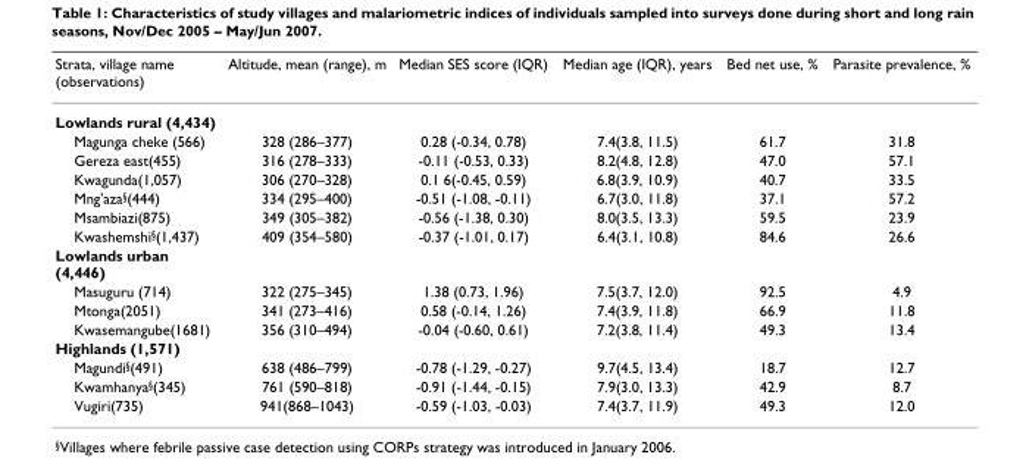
<table><thead><tr><td>Strata, village name (observations)</td><td>Altitude, mean (range), m</td><td>Median SES score (IQR)</td><td>Median age (IQR), years</td><td>Bed net use, %</td><td>Parasite prevalence, %</td></tr></thead><tbody><tr><td colspan="6">Lowlands rural (4,434)</td></tr><tr><td>Magunga cheke (566)</td><td>328 (286–377)</td><td>0.28 (-0.34, 0.78)</td><td>7.4(3.8, 11.5)</td><td>61.7</td><td>31.8</td></tr><tr><td>Gereza east(455)</td><td>316 (278–333)</td><td>-0.11 (-0.53, 0.33)</td><td>8.2(4.8, 12.8)</td><td>47.0</td><td>57.1</td></tr><tr><td>Kwagunda(1,057)</td><td>306 (270–328)</td><td>0.1 6(-0.45, 0.59)</td><td>6.8(3.9, 10.9)</td><td>40.7</td><td>33.5</td></tr><tr><td>Mng&#x27;aza<sup>§</sup>(444)</td><td>334 (295–400)</td><td>-0.51 (-1.08, -0.11)</td><td>6.7(3.0, 11.8)</td><td>37.1</td><td>57.2</td></tr><tr><td>Msambiazi(875)</td><td>349 (305–382)</td><td>-0.56 (-1.38, 0.30)</td><td>8.0(3.5, 13.3)</td><td>59.5</td><td>23.9</td></tr><tr><td>Kwashemshi<sup>§</sup>(1,437)</td><td>409 (354–580)</td><td>-0.37 (-1.01, 0.17)</td><td>6.4(3.1, 10.8)</td><td>84.6</td><td>26.6</td></tr><tr><td colspan="6">Lowlands urban (4,446)</td></tr><tr><td>Masuguru (714)</td><td>322 (275–345)</td><td>1.38 (0.73, 1.96)</td><td>7.5(3.7, 12.0)</td><td>92.5</td><td>4.9</td></tr><tr><td>Mtonga(2051)</td><td>341 (273–416)</td><td>0.58 (-0.14, 1.26)</td><td>7.4(3.9, 11.8)</td><td>66.9</td><td>11.8</td></tr><tr><td>Kwasemangube(1681)</td><td>356 (310–494)</td><td>-0.04 (-0.60, 0.61)</td><td>7.2(3.8, 11.4)</td><td>49.3</td><td>13.4</td></tr><tr><td colspan="6">Highlands (1,571)</td></tr><tr><td>Magundi<sup>§</sup>(491)</td><td>638 (486–799)</td><td>-0.78 (-1.29, -0.27)</td><td>9.7(4.5, 13.4)</td><td>18.7</td><td>12.7</td></tr><tr><td>Kwamhanya<sup>§</sup>(345)</td><td>761 (590–818)</td><td>-0.91 (-1.44, -0.15)</td><td>7.9(3.0, 13.3)</td><td>42.9</td><td>8.7</td></tr><tr><td>Vugiri(735)</td><td>941(868–1043)</td><td>-0.59 (-1.03, -0.03)</td><td>7.4(3.7, 11.9)</td><td>49.3</td><td>12.0</td></tr></tbody></table>